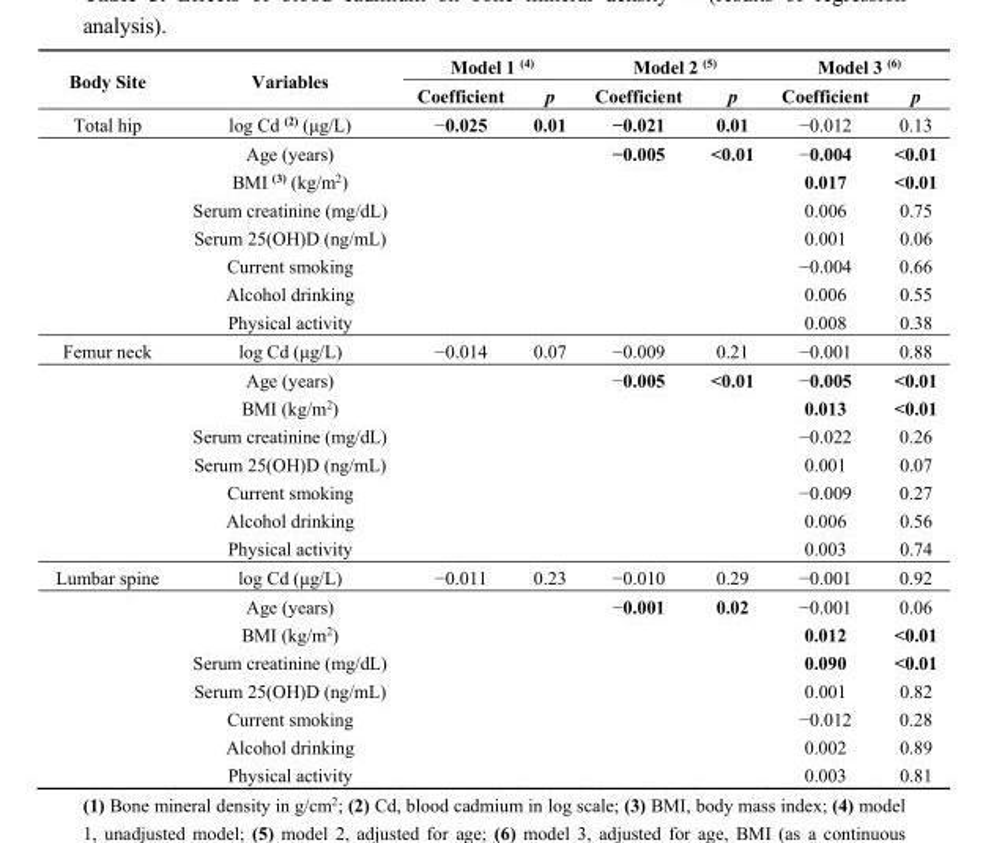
<table><thead><tr><td rowspan="2">Body Site</td><td rowspan="2">Variables</td><td colspan="2">Model 1 <sup>(4)</sup></td><td colspan="2">Model 2 <sup>(5)</sup></td><td colspan="2">Model 3 <sup>(6)</sup></td></tr><tr><td>Coefficient</td><td>p</td><td>Coefficient</td><td>p</td><td>Coefficient</td><td>p</td></tr></thead><tbody><tr><td rowspan="8">Total hip</td><td>log Cd <sup>(2)</sup> (μg/L)</td><td>−0.025</td><td>0.01</td><td>−0.021</td><td>0.01</td><td>−0.012</td><td>0.13</td></tr><tr><td>Age (years)</td><td></td><td></td><td>−0.005</td><td>&lt;0.01</td><td>−0.004</td><td>&lt;0.01</td></tr><tr><td>BMI <sup>(3)</sup> (kg/m<sup>2</sup>)</td><td></td><td></td><td></td><td></td><td>0.017</td><td>&lt;0.01</td></tr><tr><td>Serum creatinine (mg/dL)</td><td></td><td></td><td></td><td></td><td>0.006</td><td>0.75</td></tr><tr><td>Serum 25(OH)D (ng/mL)</td><td></td><td></td><td></td><td></td><td>0.001</td><td>0.06</td></tr><tr><td>Current smoking</td><td></td><td></td><td></td><td></td><td>−0.004</td><td>0.66</td></tr><tr><td>Alcohol drinking</td><td></td><td></td><td></td><td></td><td>0.006</td><td>0.55</td></tr><tr><td>Physical activity</td><td></td><td></td><td></td><td></td><td>0.008</td><td>0.38</td></tr><tr><td rowspan="8">Femur neck</td><td>log Cd (μg/L)</td><td>−0.014</td><td>0.07</td><td>−0.009</td><td>0.21</td><td>−0.001</td><td>0.88</td></tr><tr><td>Age (years)</td><td></td><td></td><td>−0.005</td><td>&lt;0.01</td><td>−0.005</td><td>&lt;0.01</td></tr><tr><td>BMI (kg/m<sup>2</sup>)</td><td></td><td></td><td></td><td></td><td>0.013</td><td>&lt;0.01</td></tr><tr><td>Serum creatinine (mg/dL)</td><td></td><td></td><td></td><td></td><td>−0.022</td><td>0.26</td></tr><tr><td>Serum 25(OH)D (ng/mL)</td><td></td><td></td><td></td><td></td><td>0.001</td><td>0.07</td></tr><tr><td>Current smoking</td><td></td><td></td><td></td><td></td><td>−0.009</td><td>0.27</td></tr><tr><td>Alcohol drinking</td><td></td><td></td><td></td><td></td><td>0.006</td><td>0.56</td></tr><tr><td>Physical activity</td><td></td><td></td><td></td><td></td><td>0.003</td><td>0.74</td></tr><tr><td rowspan="8">Lumbar spine</td><td>log Cd (μg/L)</td><td>−0.011</td><td>0.23</td><td>−0.010</td><td>0.29</td><td>−0.001</td><td>0.92</td></tr><tr><td>Age (years)</td><td></td><td></td><td>−0.001</td><td>0.02</td><td>−0.001</td><td>0.06</td></tr><tr><td>BMI (kg/m<sup>2</sup>)</td><td></td><td></td><td></td><td></td><td>0.012</td><td>&lt;0.01</td></tr><tr><td>Serum creatinine (mg/dL)</td><td></td><td></td><td></td><td></td><td>0.090</td><td>&lt;0.01</td></tr><tr><td>Serum 25(OH)D (ng/mL)</td><td></td><td></td><td></td><td></td><td>0.001</td><td>0.82</td></tr><tr><td>Current smoking</td><td></td><td></td><td></td><td></td><td>−0.012</td><td>0.28</td></tr><tr><td>Alcohol drinking</td><td></td><td></td><td></td><td></td><td>0.002</td><td>0.89</td></tr><tr><td>Physical activity</td><td></td><td></td><td></td><td></td><td>0.003</td><td>0.81</td></tr></tbody></table>